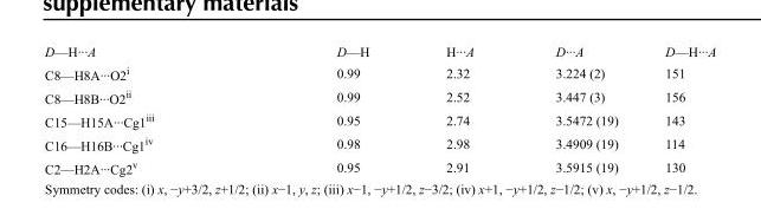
<table><tbody><tr><td>D—H···A</td><td>D—H</td><td>H···A</td><td>D···A</td><td>D—H···A</td></tr><tr><td>C8—H8A···O2<sup>i</sup></td><td>0.99</td><td>2.32</td><td>3.224 (2)</td><td>151</td></tr><tr><td>C8—H8B···O2<sup>ii</sup></td><td>0.99</td><td>2.52</td><td>3.447 (3)</td><td>156</td></tr><tr><td>C15—H15A···Cg1<sup>iii</sup></td><td>0.95</td><td>2.74</td><td>3.5472 (19)</td><td>143</td></tr><tr><td>C16—H16B···Cg1<sup>iv</sup></td><td>0.98</td><td>2.98</td><td>3.4909 (19)</td><td>114</td></tr><tr><td>C2—H2A···Cg2<sup>v</sup></td><td>0.95</td><td>2.91</td><td>3.5915 (19)</td><td>130</td></tr></tbody></table>